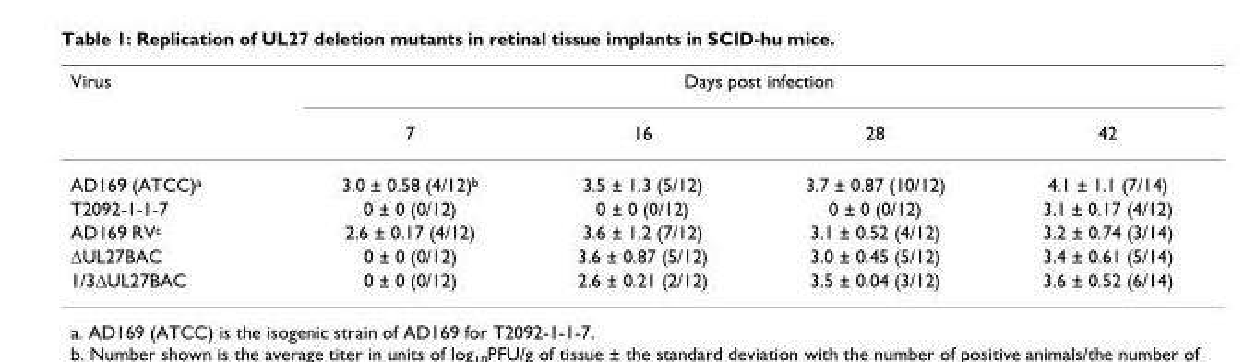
<table><thead><tr><td rowspan="2">Virus</td><td colspan="4">Days post infection</td></tr><tr><td>7</td><td>16</td><td>28</td><td>42</td></tr></thead><tbody><tr><td>AD169 (ATCC)<sup>a</sup></td><td>3.0 ± 0.58 (4/12)<sup>b</sup></td><td>3.5 ± 1.3 (5/12)</td><td>3.7 ± 0.87 (10/12)</td><td>4.1 ± 1.1 (7/14)</td></tr><tr><td>T2092-1-1-7</td><td>0 ± 0 (0/12)</td><td>0 ± 0 (0/12)</td><td>0 ± 0 (0/12)</td><td>3.1 ± 0.17 (4/12)</td></tr><tr><td>AD169 RV<sup>c</sup></td><td>2.6 ± 0.17 (4/12)</td><td>3.6 ± 1.2 (7/12)</td><td>3.1 ± 0.52 (4/12)</td><td>3.2 ± 0.74 (3/14)</td></tr><tr><td>∆UL27BAC</td><td>0 ± 0 (0/12)</td><td>3.6 ± 0.87 (5/12)</td><td>3.0 ± 0.45 (5/12)</td><td>3.4 ± 0.61 (5/14)</td></tr><tr><td>1/3∆UL27BAC</td><td>0 ± 0 (0/12)</td><td>2.6 ± 0.21 (2/12)</td><td>3.5 ± 0.04 (3/12)</td><td>3.6 ± 0.52 (6/14)</td></tr></tbody></table>